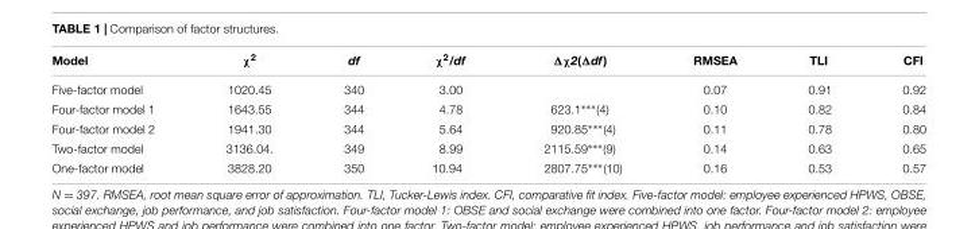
<table><thead><tr><td>Model</td><td>χ<sup>2</sup></td><td>df</td><td>χ<sup>2</sup>/df</td><td>Δχ2(Δdf)</td><td>RMSEA</td><td>TLI</td><td>CFI</td></tr></thead><tbody><tr><td>Five-factor model</td><td>1020.45</td><td>340</td><td>3.00</td><td></td><td>0.07</td><td>0.91</td><td>0.92</td></tr><tr><td>Four-factor model 1</td><td>1643.55</td><td>344</td><td>4.78</td><td>623.1∗∗∗(4)</td><td>0.10</td><td>0.82</td><td>0.84</td></tr><tr><td>Four-factor model 2</td><td>1941.30</td><td>344</td><td>5.64</td><td>920.85∗∗∗(4)</td><td>0.11</td><td>0.78</td><td>0.80</td></tr><tr><td>Two-factor model</td><td>3136.04.</td><td>349</td><td>8.99</td><td>2115.59∗∗∗(9)</td><td>0.14</td><td>0.63</td><td>0.65</td></tr><tr><td>One-factor model</td><td>3828.20</td><td>350</td><td>10.94</td><td>2807.75∗∗∗(10)</td><td>0.16</td><td>0.53</td><td>0.57</td></tr></tbody></table>